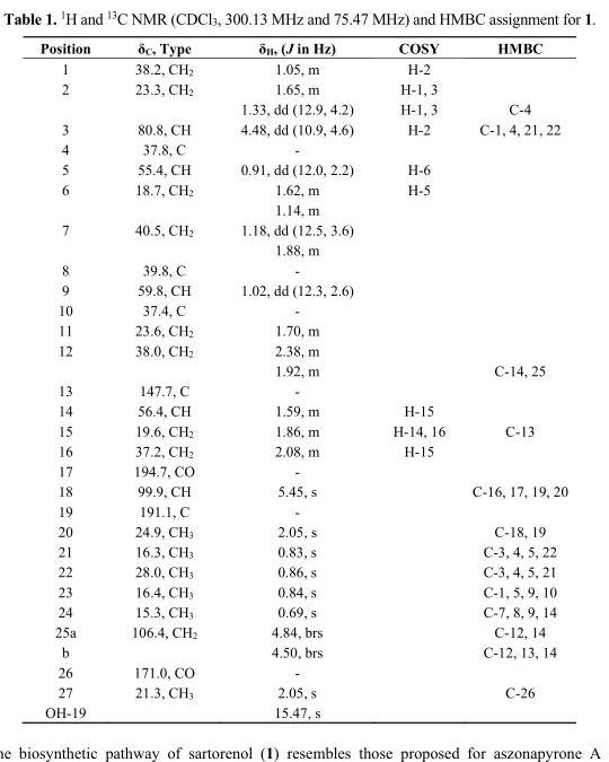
<table><thead><tr><td>Position</td><td>δ<sub>C</sub>, Type</td><td>δ<sub>H</sub>, (J in Hz)</td><td>COSY</td><td>HMBC</td></tr></thead><tbody><tr><td>1</td><td>38.2, CH<sub>2</sub></td><td>1.05, m</td><td>H-2</td><td></td></tr><tr><td rowspan="2">2</td><td>23.3, CH<sub>2</sub></td><td>1.65, m</td><td>H-1, 3</td><td></td></tr><tr><td></td><td>1.33, dd (12.9, 4.2)</td><td>H-1, 3</td><td>C-4</td></tr><tr><td>3</td><td>80.8, CH</td><td>4.48, dd (10.9, 4.6)</td><td>H-2</td><td>C-1, 4, 21, 22</td></tr><tr><td>4</td><td>37.8, C</td><td>-</td><td></td><td></td></tr><tr><td>5</td><td>55.4, CH</td><td>0.91, dd (12.0, 2.2)</td><td>H-6</td><td></td></tr><tr><td rowspan="2">6</td><td>18.7, CH<sub>2</sub></td><td>1.62, m</td><td>H-5</td><td></td></tr><tr><td></td><td>1.14, m</td><td></td><td></td></tr><tr><td rowspan="2">7</td><td>40.5, CH<sub>2</sub></td><td>1.18, dd (12.5, 3.6)</td><td></td><td></td></tr><tr><td></td><td>1.88, m</td><td></td><td></td></tr><tr><td>8</td><td>39.8, C</td><td>-</td><td></td><td></td></tr><tr><td>9</td><td>59.8, CH</td><td>1.02, dd (12.3, 2.6)</td><td></td><td></td></tr><tr><td>10</td><td>37.4, C</td><td>-</td><td></td><td></td></tr><tr><td>11</td><td>23.6, CH<sub>2</sub></td><td>1.70, m</td><td></td><td></td></tr><tr><td rowspan="2">12</td><td>38.0, CH<sub>2</sub></td><td>2.38, m</td><td></td><td></td></tr><tr><td></td><td>1.92, m</td><td></td><td>C-14, 25</td></tr><tr><td>13</td><td>147.7, C</td><td>-</td><td></td><td></td></tr><tr><td>14</td><td>56.4, CH</td><td>1.59, m</td><td>H-15</td><td></td></tr><tr><td>15</td><td>19.6, CH<sub>2</sub></td><td>1.86, m</td><td>H-14, 16</td><td>C-13</td></tr><tr><td>16</td><td>37.2, CH<sub>2</sub></td><td>2.08, m</td><td>H-15</td><td></td></tr><tr><td>17</td><td>194.7, CO</td><td>-</td><td></td><td></td></tr><tr><td>18</td><td>99.9, CH</td><td>5.45, s</td><td></td><td>C-16, 17, 19, 20</td></tr><tr><td>19</td><td>191.1, C</td><td>-</td><td></td><td></td></tr><tr><td>20</td><td>24.9, CH<sub>3</sub></td><td>2.05, s</td><td></td><td>C-18, 19</td></tr><tr><td>21</td><td>16.3, CH<sub>3</sub></td><td>0.83, s</td><td></td><td>C-3, 4, 5, 22</td></tr><tr><td>22</td><td>28.0, CH<sub>3</sub></td><td>0.86, s</td><td></td><td>C-3, 4, 5, 21</td></tr><tr><td>23</td><td>16.4, CH<sub>3</sub></td><td>0.84, s</td><td></td><td>C-1, 5, 9, 10</td></tr><tr><td>24</td><td>15.3, CH<sub>3</sub></td><td>0.69, s</td><td></td><td>C-7, 8, 9, 14</td></tr><tr><td>25a</td><td>106.4, CH<sub>2</sub></td><td>4.84, brs</td><td></td><td>C-12, 14</td></tr><tr><td>b</td><td></td><td>4.50, brs</td><td></td><td>C-12, 13, 14</td></tr><tr><td>26</td><td>171.0, CO</td><td>-</td><td></td><td></td></tr><tr><td>27</td><td>21.3, CH<sub>3</sub></td><td>2.05, s</td><td></td><td>C-26</td></tr><tr><td>OH-19</td><td></td><td>15.47, s</td><td></td><td></td></tr></tbody></table>